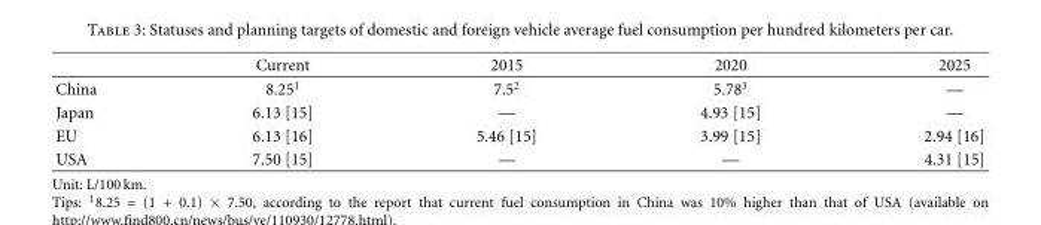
<table><thead><tr><td></td><td>Current</td><td>2015</td><td>2020</td><td>2025</td></tr></thead><tbody><tr><td>China</td><td>8.25<sup>1</sup></td><td>7.5<sup>2</sup></td><td>5.78<sup>3</sup></td><td>—</td></tr><tr><td>Japan</td><td>6.13 [15]</td><td>—</td><td>4.93 [15]</td><td>—</td></tr><tr><td>EU</td><td>6.13 [16]</td><td>5.46 [15]</td><td>3.99 [15]</td><td>2.94 [16]</td></tr><tr><td>USA</td><td>7.50 [15]</td><td>—</td><td>—</td><td>4.31 [15]</td></tr></tbody></table>